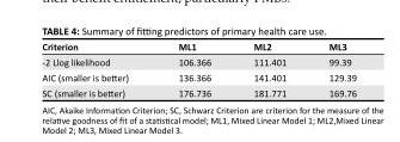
<table><thead><tr><td>Criterion</td><td>ML1</td><td>ML2</td><td>ML3</td></tr></thead><tbody><tr><td>-2 Llog likelihood</td><td>106.366</td><td>111.401</td><td>99.39</td></tr><tr><td>AIC (smaller is better)</td><td>136.366</td><td>141.401</td><td>129.39</td></tr><tr><td>SC (smaller is better)</td><td>176.736</td><td>181.771</td><td>169.76</td></tr></tbody></table>